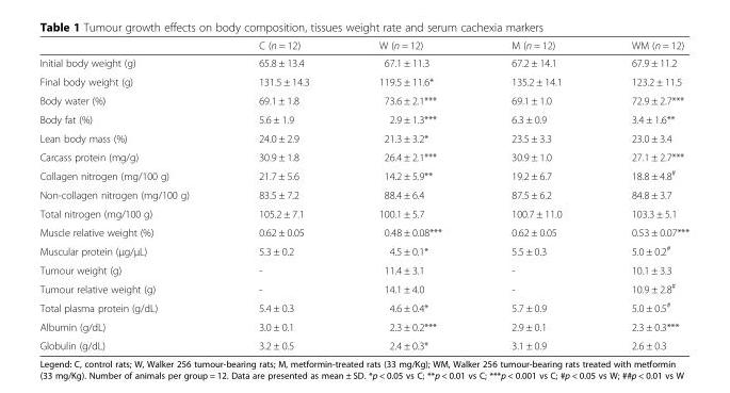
<table><thead><tr><td></td><td>C (n = 12)</td><td>W (n = 12)</td><td>M (n = 12)</td><td>WM (n = 12)</td></tr></thead><tbody><tr><td>Initial body weight (g)</td><td>65.8 ± 13.4</td><td>67.1 ± 11.3</td><td>67.2 ± 14.1</td><td>67.9 ± 11.2</td></tr><tr><td>Final body weight (g)</td><td>131.5 ± 14.3</td><td>119.5 ± 11.6*</td><td>135.2 ± 14.1</td><td>123.2 ± 11.5</td></tr><tr><td>Body water (%)</td><td>69.1 ± 1.8</td><td>73.6 ± 2.1***</td><td>69.1 ± 1.0</td><td>72.9 ± 2.7***</td></tr><tr><td>Body fat (%)</td><td>5.6 ± 1.9</td><td>2.9 ± 1.3***</td><td>6.3 ± 0.9</td><td>3.4 ± 1.6**</td></tr><tr><td>Lean body mass (%)</td><td>24.0 ± 2.9</td><td>21.3 ± 3.2*</td><td>23.5 ± 3.3</td><td>23.0 ± 3.4</td></tr><tr><td>Carcass protein (mg/g)</td><td>30.9 ± 1.8</td><td>26.4 ± 2.1***</td><td>30.9 ± 1.0</td><td>27.1 ± 2.7***</td></tr><tr><td>Collagen nitrogen (mg/100 g)</td><td>21.7 ± 5.6</td><td>14.2 ± 5.9**</td><td>19.2 ± 6.7</td><td>18.8 ± 4.8<sup>#</sup></td></tr><tr><td>Non-collagen nitrogen (mg/100 g)</td><td>83.5 ± 7.2</td><td>88.4 ± 6.4</td><td>87.5 ± 6.2</td><td>84.8 ± 3.7</td></tr><tr><td>Total nitrogen (mg/100 g)</td><td>105.2 ± 7.1</td><td>100.1 ± 5.7</td><td>100.7 ± 11.0</td><td>103.3 ± 5.1</td></tr><tr><td>Muscle relative weight (%)</td><td>0.62 ± 0.05</td><td>0.48 ± 0.08***</td><td>0.62 ± 0.05</td><td>0.53 ± 0.07***</td></tr><tr><td>Muscular protein (μg/μL)</td><td>5.3 ± 0.2</td><td>4.5 ± 0.1*</td><td>5.5 ± 0.3</td><td>5.0 ± 0.2<sup>#</sup></td></tr><tr><td>Tumour weight (g)</td><td>-</td><td>11.4 ± 3.1</td><td>-</td><td>10.1 ± 3.3</td></tr><tr><td>Tumour relative weight (g)</td><td>-</td><td>14.1 ± 4.0</td><td>-</td><td>10.9 ± 2.8<sup>#</sup></td></tr><tr><td>Total plasma protein (g/dL)</td><td>5.4 ± 0.3</td><td>4.6 ± 0.4*</td><td>5.7 ± 0.9</td><td>5.0 ± 0.5<sup>#</sup></td></tr><tr><td>Albumin (g/dL)</td><td>3.0 ± 0.1</td><td>2.3 ± 0.2***</td><td>2.9 ± 0.1</td><td>2.3 ± 0.3***</td></tr><tr><td>Globulin (g/dL)</td><td>3.2 ± 0.5</td><td>2.4 ± 0.3*</td><td>3.1 ± 0.9</td><td>2.6 ± 0.3</td></tr></tbody></table>